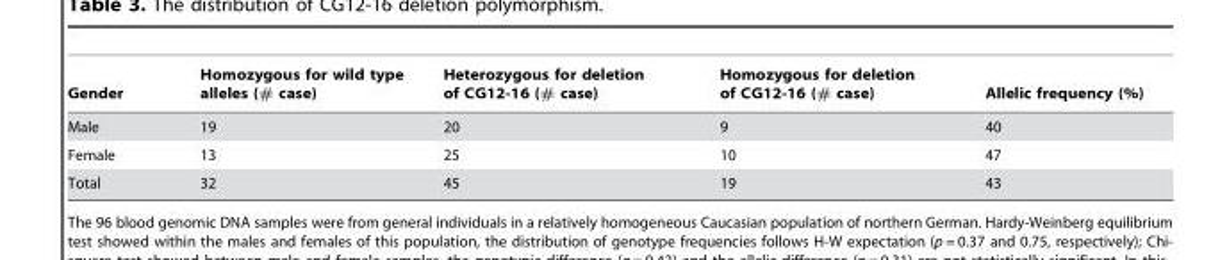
<table><thead><tr><td>Gender</td><td>Homozygous for wild type alleles (# case)</td><td>Heterozygous for deletion of CG12-16 (# case)</td><td>Homozygous for deletion of CG12-16 (# case)</td><td>Allelic frequency (%)</td></tr></thead><tbody><tr><td>Male</td><td>19</td><td>20</td><td>9</td><td>40</td></tr><tr><td>Female</td><td>13</td><td>25</td><td>10</td><td>47</td></tr><tr><td>Total</td><td>32</td><td>45</td><td>19</td><td>43</td></tr></tbody></table>